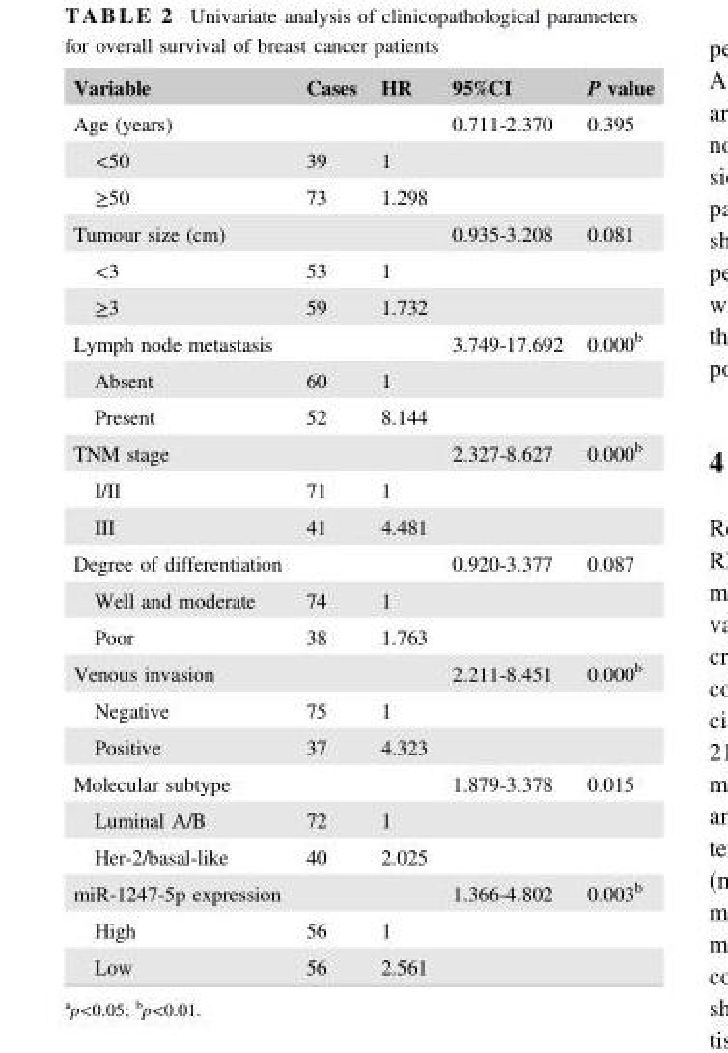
<table><thead><tr><td>Variable</td><td>Cases</td><td>HR</td><td>95%CI</td><td>P value</td></tr></thead><tbody><tr><td>Age (years)</td><td></td><td></td><td>0.711‐2.370</td><td>0.395</td></tr><tr><td>&lt;50</td><td>39</td><td>1</td><td></td><td></td></tr><tr><td>≥50</td><td>73</td><td>1.298</td><td></td><td></td></tr><tr><td>Tumour size (cm)</td><td></td><td></td><td>0.935‐3.208</td><td>0.081</td></tr><tr><td>&lt;3</td><td>53</td><td>1</td><td></td><td></td></tr><tr><td>≥3</td><td>59</td><td>1.732</td><td></td><td></td></tr><tr><td>Lymph node metastasis</td><td></td><td></td><td>3.749‐17.692</td><td>0.000<sup>b</sup></td></tr><tr><td>Absent</td><td>60</td><td>1</td><td></td><td></td></tr><tr><td>Present</td><td>52</td><td>8.144</td><td></td><td></td></tr><tr><td>TNM stage</td><td></td><td></td><td>2.327‐8.627</td><td>0.000<sup>b</sup></td></tr><tr><td>I/II</td><td>71</td><td>1</td><td></td><td></td></tr><tr><td>III</td><td>41</td><td>4.481</td><td></td><td></td></tr><tr><td>Degree of differentiation</td><td></td><td></td><td>0.920‐3.377</td><td>0.087</td></tr><tr><td>Well and moderate</td><td>74</td><td>1</td><td></td><td></td></tr><tr><td>Poor</td><td>38</td><td>1.763</td><td></td><td></td></tr><tr><td>Venous invasion</td><td></td><td></td><td>2.211‐8.451</td><td>0.000<sup>b</sup></td></tr><tr><td>Negative</td><td>75</td><td>1</td><td></td><td></td></tr><tr><td>Positive</td><td>37</td><td>4.323</td><td></td><td></td></tr><tr><td>Molecular subtype</td><td></td><td></td><td>1.879‐3.378</td><td>0.015</td></tr><tr><td>Luminal A/B</td><td>72</td><td>1</td><td></td><td></td></tr><tr><td>Her‐2/basal‐like</td><td>40</td><td>2.025</td><td></td><td></td></tr><tr><td>miR‐1247‐5p expression</td><td></td><td></td><td>1.366‐4.802</td><td>0.003<sup>b</sup></td></tr><tr><td>High</td><td>56</td><td>1</td><td></td><td></td></tr><tr><td>Low</td><td>56</td><td>2.561</td><td></td><td></td></tr></tbody></table>